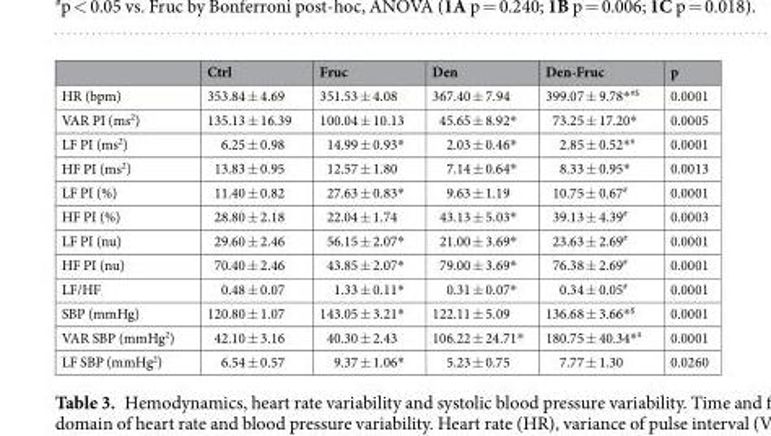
<table><thead><tr><td></td><td>Ctrl</td><td>Fruc</td><td>Den</td><td>Den-Fruc</td><td>p</td></tr></thead><tbody><tr><td>HR (bpm)</td><td>353.84 ± 4.69</td><td>351.53 ± 4.08</td><td>367.40 ± 7.94</td><td>399.07 ± 9.78*<sup>#$</sup></td><td>0.0001</td></tr><tr><td>VAR PI (ms<sup>2</sup>)</td><td>135.13 ± 16.39</td><td>100.04 ± 10.13</td><td>45.65 ± 8.92*</td><td>73.25 ± 17.20*</td><td>0.0005</td></tr><tr><td>LF PI (ms<sup>2</sup>)</td><td>6.25 ± 0.98</td><td>14.99 ± 0.93*</td><td>2.03 ± 0.46*</td><td>2.85 ± 0.52*<sup>#</sup></td><td>0.0001</td></tr><tr><td>HF PI (ms<sup>2</sup>)</td><td>13.83 ± 0.95</td><td>12.57 ± 1.80</td><td>7.14 ± 0.64*</td><td>8.33 ± 0.95*</td><td>0.0013</td></tr><tr><td>LF PI (%)</td><td>11.40 ± 0.82</td><td>27.63 ± 0.83*</td><td>9.63 ± 1.19</td><td>10.75 ± 0.67<sup>#</sup></td><td>0.0001</td></tr><tr><td>HF PI (%)</td><td>28.80 ± 2.18</td><td>22.04 ± 1.74</td><td>43.13 ± 5.03*</td><td>39.13 ± 4.39<sup>#</sup></td><td>0.0003</td></tr><tr><td>LF PI (nu)</td><td>29.60 ± 2.46</td><td>56.15 ± 2.07*</td><td>21.00 ± 3.69*</td><td>23.63 ± 2.69<sup>#</sup></td><td>0.0001</td></tr><tr><td>HF PI (nu)</td><td>70.40 ± 2.46</td><td>43.85 ± 2.07*</td><td>79.00 ± 3.69*</td><td>76.38 ± 2.69<sup>#</sup></td><td>0.0001</td></tr><tr><td>LF/HF</td><td>0.48 ± 0.07</td><td>1.33 ± 0.11*</td><td>0.31 ± 0.07*</td><td>0.34 ± 0.05<sup>#</sup></td><td>0.0001</td></tr><tr><td>SBP (mmHg)</td><td>120.80 ± 1.07</td><td>143.05 ± 3.21*</td><td>122.11 ± 5.09</td><td>136.68 ± 3.66*<sup>$</sup></td><td>0.0001</td></tr><tr><td>VAR SBP (mmHg<sup>2</sup>)</td><td>42.10 ± 3.16</td><td>40.30 ± 2.43</td><td>106.22 ± 24.71*</td><td>180.75 ± 40.34*<sup>#</sup></td><td>0.0001</td></tr><tr><td>LF SBP (mmHg<sup>2</sup>)</td><td>6.54 ± 0.57</td><td>9.37 ± 1.06*</td><td>5.23 ± 0.75</td><td>7.77 ± 1.30</td><td>0.0260</td></tr></tbody></table>